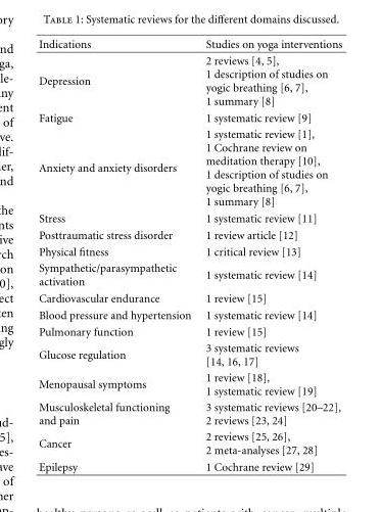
<table><thead><tr><td>Indications</td><td>Studies on yoga interventions</td></tr></thead><tbody><tr><td>Depression</td><td>2 reviews [4, 5], 1 description of studies on yogic breathing [6, 7], 1 summary [8]</td></tr><tr><td>Fatigue</td><td>1 systematic review [9]</td></tr><tr><td>Anxiety and anxiety disorders</td><td>1 systematic review [1], 1 Cochrane review on meditation therapy [10], 1 description of studies on yogic breathing [6, 7], 1 summary [8]</td></tr><tr><td>Stress</td><td>1 systematic review [11]</td></tr><tr><td>Posttraumatic stress disorder</td><td>1 review article [12]</td></tr><tr><td>Physical fitness</td><td>1 critical review [13]</td></tr><tr><td>Sympathetic/parasympathetic activation</td><td>1 systematic review [14]</td></tr><tr><td>Cardiovascular endurance</td><td>1 review [15]</td></tr><tr><td>Blood pressure and hypertension</td><td>1 systematic review [14]</td></tr><tr><td>Pulmonary function</td><td>1 review [15]</td></tr><tr><td>Glucose regulation</td><td>3 systematic reviews [14, 16, 17]</td></tr><tr><td>Menopausal symptoms</td><td>1 review [18], 1 systematic review [19]</td></tr><tr><td>Musculoskeletal functioning and pain</td><td>3 systematic reviews [20–22], 2 reviews [23, 24]</td></tr><tr><td>Cancer</td><td>2 reviews [25, 26], 2 meta-analyses [27, 28]</td></tr><tr><td>Epilepsy</td><td>1 Cochrane review [29]</td></tr></tbody></table>